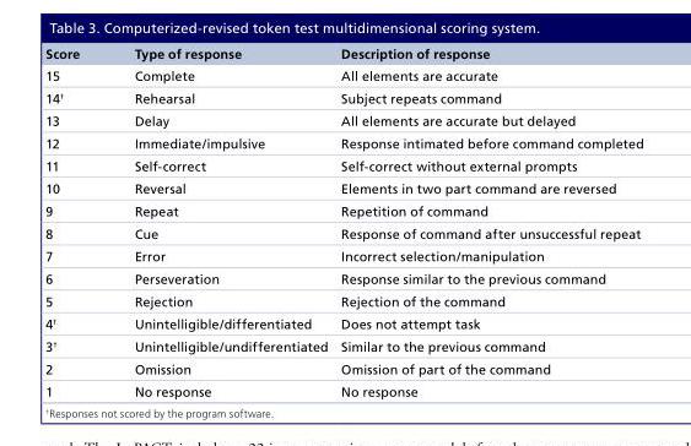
<table><thead><tr><td>Score</td><td>Type of response</td><td>Description of response</td></tr></thead><tbody><tr><td>15</td><td>Complete</td><td>All elements are accurate</td></tr><tr><td>14†</td><td>Rehearsal</td><td>Subject repeats command</td></tr><tr><td>13</td><td>Delay</td><td>All elements are accurate but delayed</td></tr><tr><td>12</td><td>Immediate/impulsive</td><td>Response intimated before command completed</td></tr><tr><td>11</td><td>Self-correct</td><td>Self-correct without external prompts</td></tr><tr><td>10</td><td>Reversal</td><td>Elements in two part command are reversed</td></tr><tr><td>9</td><td>Repeat</td><td>Repetition of command</td></tr><tr><td>8</td><td>Cue</td><td>Response of command after unsuccessful repeat</td></tr><tr><td>7</td><td>Error</td><td>Incorrect selection/manipulation</td></tr><tr><td>6</td><td>Perseveration</td><td>Response similar to the previous command</td></tr><tr><td>5</td><td>Rejection</td><td>Rejection of the command</td></tr><tr><td>4†</td><td>Unintelligible/differentiated</td><td>Does not attempt task</td></tr><tr><td>3†</td><td>Unintelligible/undifferentiated</td><td>Similar to the previous command</td></tr><tr><td>2</td><td>Omission</td><td>Omission of part of the command</td></tr><tr><td>1</td><td>No response</td><td>No response</td></tr></tbody></table>